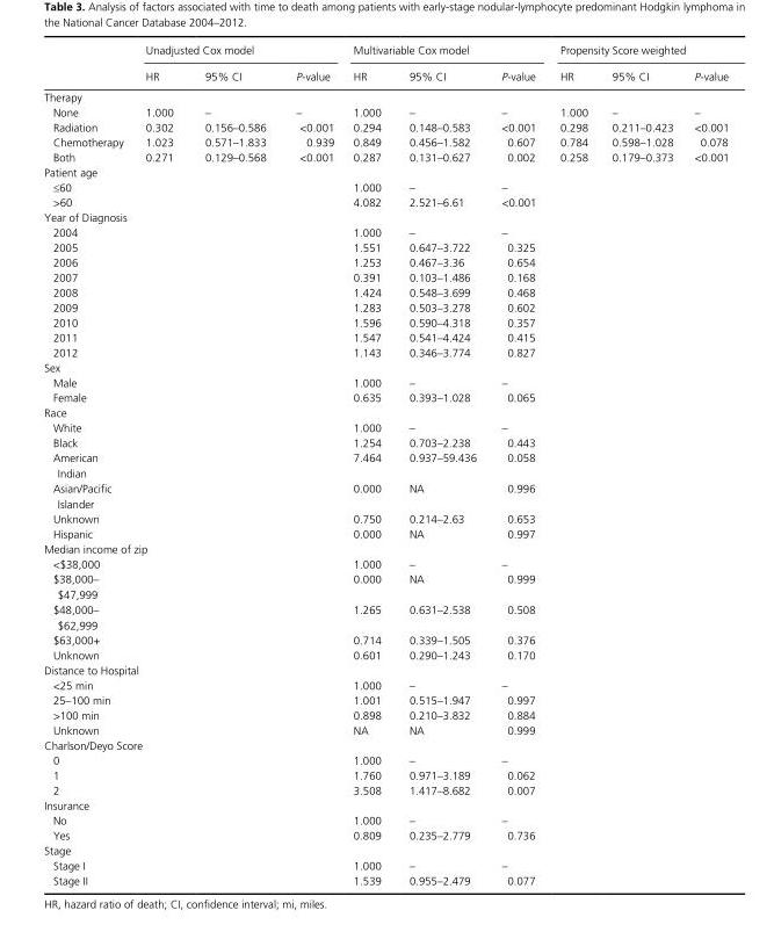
<table><thead><tr><td rowspan="2"></td><td colspan="3">Unadjusted Cox model</td><td colspan="3">Multivariable Cox model</td><td colspan="3">Propensity Score weighted</td></tr><tr><td>HR</td><td>95% CI</td><td>P- value</td><td>HR</td><td>95% CI</td><td>P- value</td><td>HR</td><td>95% CI</td><td>P- value</td></tr></thead><tbody><tr><td colspan="10">Therapy</td></tr><tr><td>None</td><td>1.000</td><td>–</td><td>–</td><td>1.000</td><td>–</td><td>–</td><td>1.000</td><td>–</td><td>–</td></tr><tr><td>Radiation</td><td>0.302</td><td>0.156–0.586</td><td>&lt;0.001</td><td>0.294</td><td>0.148–0.583</td><td>&lt;0.001</td><td>0.298</td><td>0.211–0.423</td><td>&lt;0.001</td></tr><tr><td>Chemotherapy</td><td>1.023</td><td>0.571–1.833</td><td>0.939</td><td>0.849</td><td>0.456–1.582</td><td>0.607</td><td>0.784</td><td>0.598–1.028</td><td>0.078</td></tr><tr><td>Both</td><td>0.271</td><td>0.129–0.568</td><td>&lt;0.001</td><td>0.287</td><td>0.131–0.627</td><td>0.002</td><td>0.258</td><td>0.179–0.373</td><td>&lt;0.001</td></tr><tr><td colspan="10">Patient age</td></tr><tr><td>≤60</td><td></td><td></td><td></td><td>1.000</td><td>–</td><td>–</td><td></td><td></td><td></td></tr><tr><td>&gt;60</td><td></td><td></td><td></td><td>4.082</td><td>2.521–6.61</td><td>&lt;0.001</td><td></td><td></td><td></td></tr><tr><td colspan="10">Year of Diagnosis</td></tr><tr><td>2004</td><td></td><td></td><td></td><td>1.000</td><td>–</td><td>–</td><td></td><td></td><td></td></tr><tr><td>2005</td><td></td><td></td><td></td><td>1.551</td><td>0.647–3.722</td><td>0.325</td><td></td><td></td><td></td></tr><tr><td>2006</td><td></td><td></td><td></td><td>1.253</td><td>0.467–3.36</td><td>0.654</td><td></td><td></td><td></td></tr><tr><td>2007</td><td></td><td></td><td></td><td>0.391</td><td>0.103–1.486</td><td>0.168</td><td></td><td></td><td></td></tr><tr><td>2008</td><td></td><td></td><td></td><td>1.424</td><td>0.548–3.699</td><td>0.468</td><td></td><td></td><td></td></tr><tr><td>2009</td><td></td><td></td><td></td><td>1.283</td><td>0.503–3.278</td><td>0.602</td><td></td><td></td><td></td></tr><tr><td>2010</td><td></td><td></td><td></td><td>1.596</td><td>0.590–4.318</td><td>0.357</td><td></td><td></td><td></td></tr><tr><td>2011</td><td></td><td></td><td></td><td>1.547</td><td>0.541–4.424</td><td>0.415</td><td></td><td></td><td></td></tr><tr><td>2012</td><td></td><td></td><td></td><td>1.143</td><td>0.346–3.774</td><td>0.827</td><td></td><td></td><td></td></tr><tr><td colspan="10">Sex</td></tr><tr><td>Male</td><td></td><td></td><td></td><td>1.000</td><td>–</td><td>–</td><td></td><td></td><td></td></tr><tr><td>Female</td><td></td><td></td><td></td><td>0.635</td><td>0.393–1.028</td><td>0.065</td><td></td><td></td><td></td></tr><tr><td colspan="10">Race</td></tr><tr><td>White</td><td></td><td></td><td></td><td>1.000</td><td>–</td><td>–</td><td></td><td></td><td></td></tr><tr><td>Black</td><td></td><td></td><td></td><td>1.254</td><td>0.703–2.238</td><td>0.443</td><td></td><td></td><td></td></tr><tr><td>American Indian</td><td></td><td></td><td></td><td>7.464</td><td>0.937–59.436</td><td>0.058</td><td></td><td></td><td></td></tr><tr><td>Asian/Pacific Islander</td><td></td><td></td><td></td><td>0.000</td><td>NA</td><td>0.996</td><td></td><td></td><td></td></tr><tr><td>Unknown</td><td></td><td></td><td></td><td>0.750</td><td>0.214–2.63</td><td>0.653</td><td></td><td></td><td></td></tr><tr><td>Hispanic</td><td></td><td></td><td></td><td>0.000</td><td>NA</td><td>0.997</td><td></td><td></td><td></td></tr><tr><td colspan="10">Median income of zip</td></tr><tr><td>&lt;$38,000</td><td></td><td></td><td></td><td>1.000</td><td>–</td><td>–</td><td></td><td></td><td></td></tr><tr><td>$38,000– $47,999</td><td></td><td></td><td></td><td>0.000</td><td>NA</td><td>0.999</td><td></td><td></td><td></td></tr><tr><td>$48,000– $62,999</td><td></td><td></td><td></td><td>1.265</td><td>0.631–2.538</td><td>0.508</td><td></td><td></td><td></td></tr><tr><td>$63,000+</td><td></td><td></td><td></td><td>0.714</td><td>0.339–1.505</td><td>0.376</td><td></td><td></td><td></td></tr><tr><td>Unknown</td><td></td><td></td><td></td><td>0.601</td><td>0.290–1.243</td><td>0.170</td><td></td><td></td><td></td></tr><tr><td colspan="10">Distance to Hospital</td></tr><tr><td>&lt;25 min</td><td></td><td></td><td></td><td>1.000</td><td>–</td><td>–</td><td></td><td></td><td></td></tr><tr><td>25–100 min</td><td></td><td></td><td></td><td>1.001</td><td>0.515–1.947</td><td>0.997</td><td></td><td></td><td></td></tr><tr><td>&gt;100 min</td><td></td><td></td><td></td><td>0.898</td><td>0.210–3.832</td><td>0.884</td><td></td><td></td><td></td></tr><tr><td>Unknown</td><td></td><td></td><td></td><td>NA</td><td>NA</td><td>0.999</td><td></td><td></td><td></td></tr><tr><td colspan="10">Charlson/Deyo Score</td></tr><tr><td>0</td><td></td><td></td><td></td><td>1.000</td><td>–</td><td>–</td><td></td><td></td><td></td></tr><tr><td>1</td><td></td><td></td><td></td><td>1.760</td><td>0.971–3.189</td><td>0.062</td><td></td><td></td><td></td></tr><tr><td>2</td><td></td><td></td><td></td><td>3.508</td><td>1.417–8.682</td><td>0.007</td><td></td><td></td><td></td></tr><tr><td colspan="10">Insurance</td></tr><tr><td>No</td><td></td><td></td><td></td><td>1.000</td><td>–</td><td>–</td><td></td><td></td><td></td></tr><tr><td>Yes</td><td></td><td></td><td></td><td>0.809</td><td>0.235–2.779</td><td>0.736</td><td></td><td></td><td></td></tr><tr><td colspan="10">Stage</td></tr><tr><td>Stage I</td><td></td><td></td><td></td><td>1.000</td><td>–</td><td>–</td><td></td><td></td><td></td></tr><tr><td>Stage II</td><td></td><td></td><td></td><td>1.539</td><td>0.955–2.479</td><td>0.077</td><td></td><td></td><td></td></tr></tbody></table>